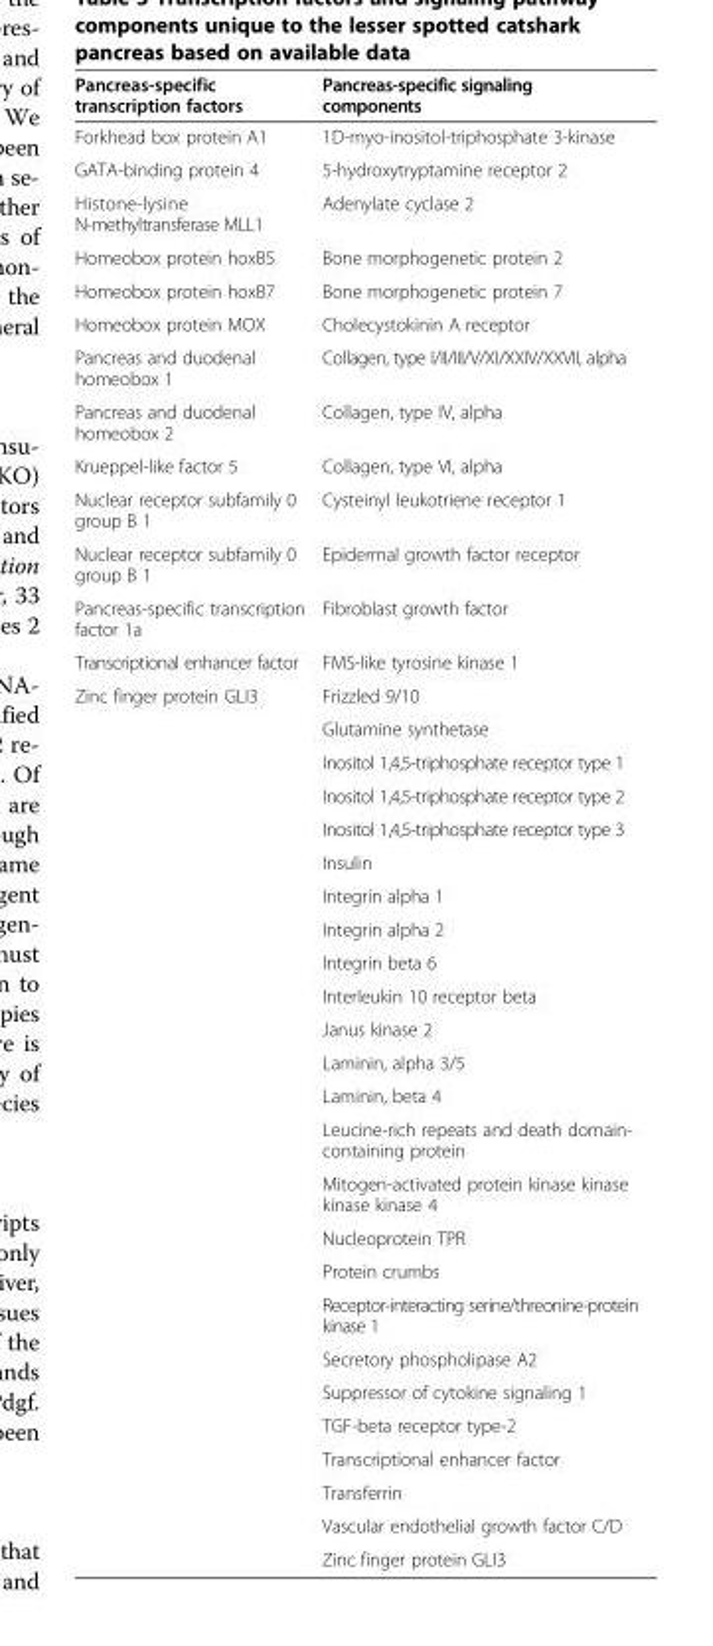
<table><thead><tr><td>Pancreas-specific transcription factors</td><td>Pancreas-specific signaling components</td></tr></thead><tbody><tr><td>Forkhead box protein A1</td><td>1D-myo-inositol-triphosphate 3-kinase</td></tr><tr><td>GATA-binding protein 4</td><td>5-hydroxytryptamine receptor 2</td></tr><tr><td>Histone-lysine N-methyltransferase MLL1</td><td>Adenylate cyclase 2</td></tr><tr><td>Homeobox protein hoxB5</td><td>Bone morphogenetic protein 2</td></tr><tr><td>Homeobox protein hoxB7</td><td>Bone morphogenetic protein 7</td></tr><tr><td>Homeobox protein MOX</td><td>Cholecystokinin A receptor</td></tr><tr><td>Pancreas and duodenal homeobox 1</td><td>Collagen, type I/II/III/V/XI/XXIV/XXVII, alpha</td></tr><tr><td>Pancreas and duodenal homeobox 2</td><td>Collagen, type IV, alpha</td></tr><tr><td>Krueppel-like factor 5</td><td>Collagen, type VI, alpha</td></tr><tr><td>Nuclear receptor subfamily 0 group B 1</td><td>Cysteinyl leukotriene receptor 1</td></tr><tr><td>Nuclear receptor subfamily 0 group B 1</td><td>Epidermal growth factor receptor</td></tr><tr><td>Pancreas-specific transcription factor 1a</td><td>Fibroblast growth factor</td></tr><tr><td>Transcriptional enhancer factor</td><td>FMS-like tyrosine kinase 1</td></tr><tr><td rowspan="25">Zinc finger protein GLI3</td><td>Frizzled 9/10</td></tr><tr><td>Glutamine synthetase</td></tr><tr><td>Inositol 1,4,5-triphosphate receptor type 1</td></tr><tr><td>Inositol 1,4,5-triphosphate receptor type 2</td></tr><tr><td>Inositol 1,4,5-triphosphate receptor type 3</td></tr><tr><td>Insulin</td></tr><tr><td>Integrin alpha 1</td></tr><tr><td>Integrin alpha 2</td></tr><tr><td>Integrin beta 6</td></tr><tr><td>Interleukin 10 receptor beta</td></tr><tr><td>Janus kinase 2</td></tr><tr><td>Laminin, alpha 3/5</td></tr><tr><td>Laminin, beta 4</td></tr><tr><td>Leucine-rich repeats and death domain- containing protein</td></tr><tr><td>Mitogen-activated protein kinase kinase kinase kinase 4</td></tr><tr><td>Nucleoprotein TPR</td></tr><tr><td>Protein crumbs</td></tr><tr><td>Receptor-interacting serine/threonine-protein kinase 1</td></tr><tr><td>Secretory phospholipase A2</td></tr><tr><td>Suppressor of cytokine signaling 1</td></tr><tr><td>TGF-beta receptor type-2</td></tr><tr><td>Transcriptional enhancer factor</td></tr><tr><td>Transferrin</td></tr><tr><td>Vascular endothelial growth factor C/D</td></tr><tr><td>Zinc finger protein GLI3</td></tr></tbody></table>